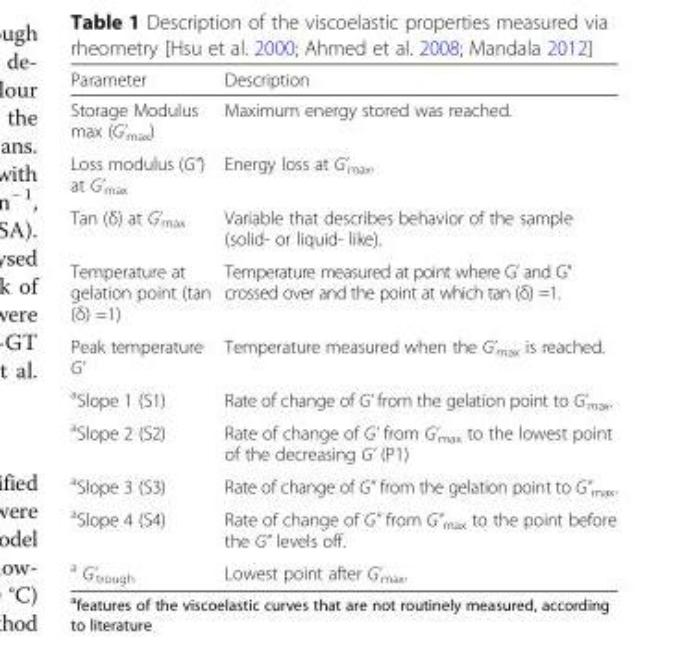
<table><thead><tr><td>Parameter</td><td>Description</td></tr></thead><tbody><tr><td>Storage Modulus max (G’<sub>max</sub>)</td><td>Maximum energy stored was reached.</td></tr><tr><td>Loss modulus (G”) at G’<sub>max</sub></td><td>Energy loss at G’<sub>max</sub>.</td></tr><tr><td>Tan (δ) at G’<sub>max</sub></td><td>Variable that describes behavior of the sample (solid- or liquid- like).</td></tr><tr><td>Temperature at gelation point (tan (δ) =1)</td><td>Temperature measured at point where G’ and G” crossed over and the point at which tan (δ) =1.</td></tr><tr><td>Peak temperature G’</td><td>Temperature measured when the G’<sub>max</sub> is reached.</td></tr><tr><td><sup>a</sup>Slope 1 (S1)</td><td>Rate of change of G’ from the gelation point to G’<sub>max</sub>.</td></tr><tr><td><sup>a</sup>Slope 2 (S2)</td><td>Rate of change of G’ from G’<sub>max</sub> to the lowest point of the decreasing G’ (P1)</td></tr><tr><td><sup>a</sup>Slope 3 (S3)</td><td>Rate of change of G” from the gelation point to G”<sub>max</sub>.</td></tr><tr><td><sup>a</sup>Slope 4 (S4)</td><td>Rate of change of G” from G”<sub>max</sub> to the point before the G” levels off.</td></tr><tr><td><sup>a</sup> G’<sub>trough</sub></td><td>Lowest point after G’<sub>max</sub>.</td></tr></tbody></table>